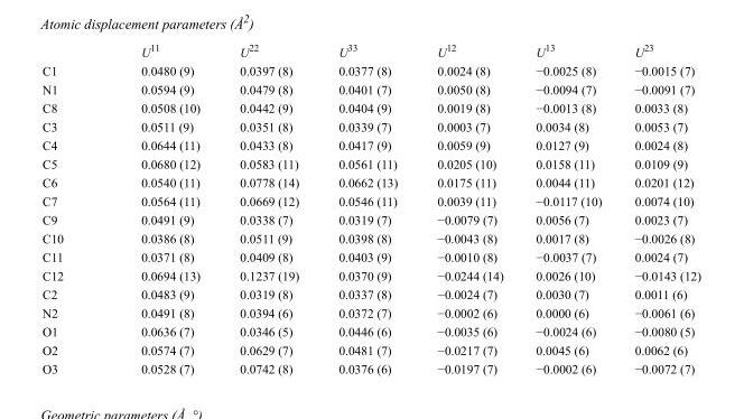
<table><thead><tr><td></td><td>U<sup>11</sup></td><td>U<sup>22</sup></td><td>U<sup>33</sup></td><td>U<sup>12</sup></td><td>U<sup>13</sup></td><td>U<sup>23</sup></td></tr></thead><tbody><tr><td>C1</td><td>0.0480 (9)</td><td>0.0397 (8)</td><td>0.0377 (8)</td><td>0.0024 (8)</td><td>−0.0025 (8)</td><td>−0.0015 (7)</td></tr><tr><td>N1</td><td>0.0594 (9)</td><td>0.0479 (8)</td><td>0.0401 (7)</td><td>0.0050 (8)</td><td>−0.0094 (7)</td><td>−0.0091 (7)</td></tr><tr><td>C8</td><td>0.0508 (10)</td><td>0.0442 (9)</td><td>0.0404 (9)</td><td>0.0019 (8)</td><td>−0.0013 (8)</td><td>0.0033 (8)</td></tr><tr><td>C3</td><td>0.0511 (9)</td><td>0.0351 (8)</td><td>0.0339 (7)</td><td>0.0003 (7)</td><td>0.0034 (8)</td><td>0.0053 (7)</td></tr><tr><td>C4</td><td>0.0644 (11)</td><td>0.0433 (8)</td><td>0.0417 (9)</td><td>0.0059 (9)</td><td>0.0127 (9)</td><td>0.0024 (8)</td></tr><tr><td>C5</td><td>0.0680 (12)</td><td>0.0583 (11)</td><td>0.0561 (11)</td><td>0.0205 (10)</td><td>0.0158 (11)</td><td>0.0109 (9)</td></tr><tr><td>C6</td><td>0.0540 (11)</td><td>0.0778 (14)</td><td>0.0662 (13)</td><td>0.0175 (11)</td><td>0.0044 (11)</td><td>0.0201 (12)</td></tr><tr><td>C7</td><td>0.0564 (11)</td><td>0.0669 (12)</td><td>0.0546 (11)</td><td>0.0039 (11)</td><td>−0.0117 (10)</td><td>0.0074 (10)</td></tr><tr><td>C9</td><td>0.0491 (9)</td><td>0.0338 (7)</td><td>0.0319 (7)</td><td>−0.0079 (7)</td><td>0.0056 (7)</td><td>0.0023 (7)</td></tr><tr><td>C10</td><td>0.0386 (8)</td><td>0.0511 (9)</td><td>0.0398 (8)</td><td>−0.0043 (8)</td><td>0.0017 (8)</td><td>−0.0026 (8)</td></tr><tr><td>C11</td><td>0.0371 (8)</td><td>0.0409 (8)</td><td>0.0403 (9)</td><td>−0.0010 (8)</td><td>−0.0037 (7)</td><td>0.0024 (7)</td></tr><tr><td>C12</td><td>0.0694 (13)</td><td>0.1237 (19)</td><td>0.0370 (9)</td><td>−0.0244 (14)</td><td>0.0026 (10)</td><td>−0.0143 (12)</td></tr><tr><td>C2</td><td>0.0483 (9)</td><td>0.0319 (8)</td><td>0.0337 (8)</td><td>−0.0024 (7)</td><td>0.0030 (7)</td><td>0.0011 (6)</td></tr><tr><td>N2</td><td>0.0491 (8)</td><td>0.0394 (6)</td><td>0.0372 (7)</td><td>−0.0002 (6)</td><td>0.0000 (6)</td><td>−0.0061 (6)</td></tr><tr><td>O1</td><td>0.0636 (7)</td><td>0.0346 (5)</td><td>0.0446 (6)</td><td>−0.0035 (6)</td><td>−0.0024 (6)</td><td>−0.0080 (5)</td></tr><tr><td>O2</td><td>0.0574 (7)</td><td>0.0629 (7)</td><td>0.0481 (7)</td><td>−0.0217 (7)</td><td>0.0045 (6)</td><td>0.0062 (6)</td></tr><tr><td>O3</td><td>0.0528 (7)</td><td>0.0742 (8)</td><td>0.0376 (6)</td><td>−0.0197 (7)</td><td>−0.0002 (6)</td><td>−0.0072 (7)</td></tr></tbody></table>